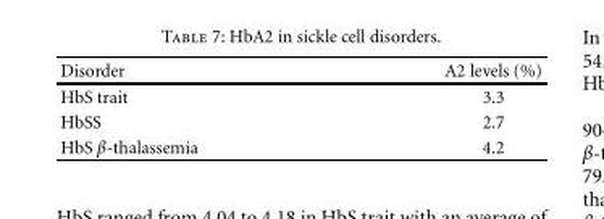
<table><thead><tr><td>Disorder</td><td>A2 levels (%)</td></tr></thead><tbody><tr><td>HbS trait</td><td>3.3</td></tr><tr><td>HbSS</td><td>2.7</td></tr><tr><td>HbS β-thalassemia</td><td>4.2</td></tr></tbody></table>